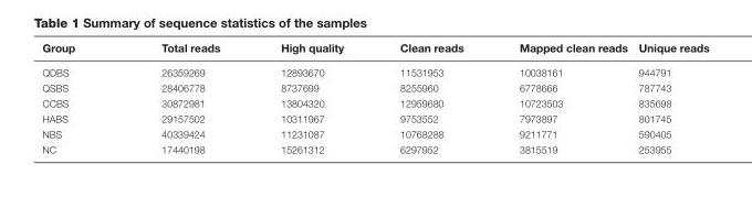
<table><thead><tr><td>Group</td><td>Total reads</td><td>High quality</td><td>Clean reads</td><td>Mapped clean reads</td><td>Unique reads</td></tr></thead><tbody><tr><td>QDBS</td><td>26359269</td><td>12893670</td><td>11531953</td><td>10038161</td><td>944791</td></tr><tr><td>QSBS</td><td>28406778</td><td>8737699</td><td>8255960</td><td>6778666</td><td>787743</td></tr><tr><td>CCBS</td><td>30872981</td><td>13804320</td><td>12959680</td><td>10723503</td><td>835698</td></tr><tr><td>HABS</td><td>29157502</td><td>10311967</td><td>9753552</td><td>7973897</td><td>801745</td></tr><tr><td>NBS</td><td>40339424</td><td>11231087</td><td>10768288</td><td>9211771</td><td>590405</td></tr><tr><td>NC</td><td>17440198</td><td>15261312</td><td>6297952</td><td>3815519</td><td>253955</td></tr></tbody></table>